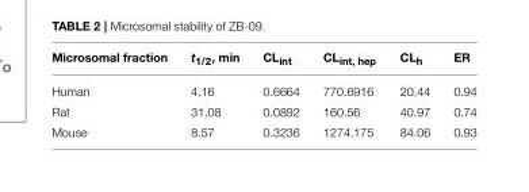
<table><thead><tr><td>Microsomal fraction</td><td>t<sub>1/2</sub>, min</td><td>CL<sub>int</sub></td><td>CL<sub>int, hep</sub></td><td>CL<sub>h</sub></td><td>ER</td></tr></thead><tbody><tr><td>Human</td><td>4.16</td><td>0.6664</td><td>770.6916</td><td>20.44</td><td>0.94</td></tr><tr><td>Rat</td><td>31.08</td><td>0.0892</td><td>160.56</td><td>40.97</td><td>0.74</td></tr><tr><td>Mouse</td><td>8.57</td><td>0.3236</td><td>1274.175</td><td>84.06</td><td>0.93</td></tr></tbody></table>